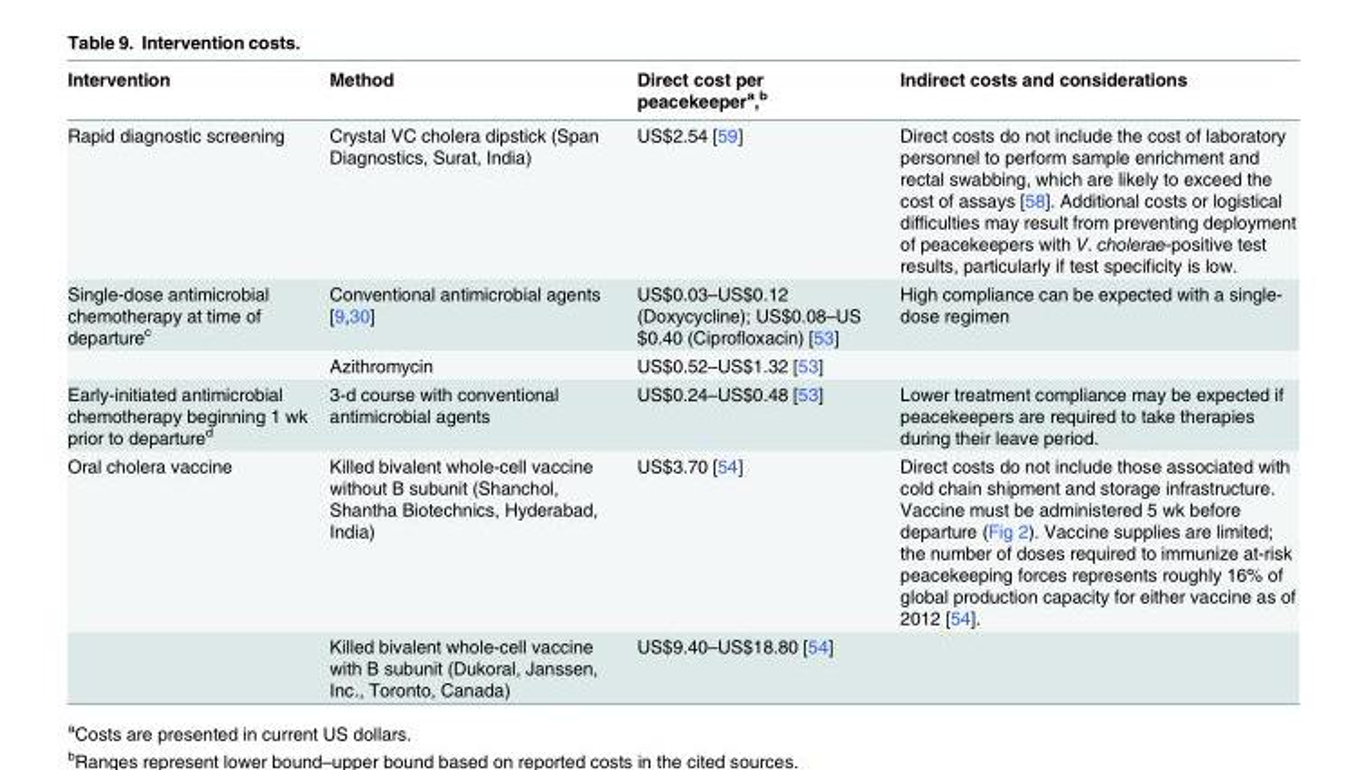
<table><thead><tr><td>Intervention</td><td>Method</td><td>Direct cost per peacekeeper<sup>a</sup>,<sup>b</sup></td><td>Indirect costs and considerations</td></tr></thead><tbody><tr><td>Rapid diagnostic screening</td><td>Crystal VC cholera dipstick (Span Diagnostics, Surat, India)</td><td>US$2.54 [59]</td><td>Direct costs do not include the cost of laboratory personnel to perform sample enrichment and rectal swabbing, which are likely to exceed the cost of assays [58]. Additional costs or logistical difficulties may result from preventing deployment of peacekeepers with V. cholerae-positive test results, particularly if test specificity is low.</td></tr><tr><td rowspan="2">Single-dose antimicrobial chemotherapy at time of departure<sup>c</sup></td><td>Conventional antimicrobial agents [9,30]</td><td>US$0.03–US$0.12 (Doxycycline); US$0.08–US $0.40 (Ciprofloxacin) [53]</td><td>High compliance can be expected with a single- dose regimen</td></tr><tr><td>Azithromycin</td><td>US$0.52–US$1.32 [53]</td><td></td></tr><tr><td>Early-initiated antimicrobial chemotherapy beginning 1 wk prior to departure<sup>d</sup></td><td>3-d course with conventional antimicrobial agents</td><td>US$0.24–US$0.48 [53]</td><td>Lower treatment compliance may be expected if peacekeepers are required to take therapies during their leave period.</td></tr><tr><td rowspan="2">Oral cholera vaccine</td><td>Killed bivalent whole-cell vaccine without B subunit (Shanchol, Shantha Biotechnics, Hyderabad, India)</td><td>US$3.70 [54]</td><td>Direct costs do not include those associated with cold chain shipment and storage infrastructure. Vaccine must be administered 5 wk before departure (Fig 2). Vaccine supplies are limited; the number of doses required to immunize at-risk peacekeeping forces represents roughly 16% of global production capacity for either vaccine as of 2012 [54].</td></tr><tr><td>Killed bivalent whole-cell vaccine with B subunit (Dukoral, Janssen, Inc., Toronto, Canada)</td><td>US$9.40–US$18.80 [54]</td><td></td></tr></tbody></table>